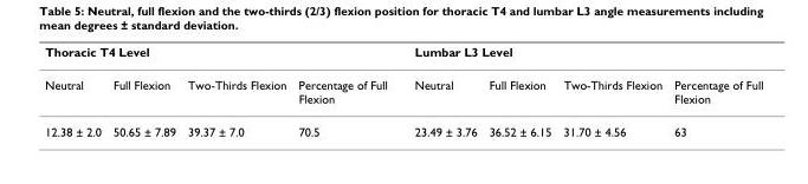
<table><thead><tr><td colspan="4">Thoracic T4 Level</td><td colspan="4">Lumbar L3 Level</td></tr><tr><td>Neutral</td><td>Full Flexion</td><td>Two-Thirds Flexion</td><td>Percentage of Full Flexion</td><td>Neutral</td><td>Full Flexion</td><td>Two-Thirds Flexion</td><td>Percentage of Full Flexion</td></tr></thead><tbody><tr><td>12.38 ± 2.0</td><td>50.65 ± 7.89</td><td>39.37 ± 7.0</td><td>70.5</td><td>23.49 ± 3.76</td><td>36.52 ± 6.15</td><td>31.70 ± 4.56</td><td>63</td></tr></tbody></table>